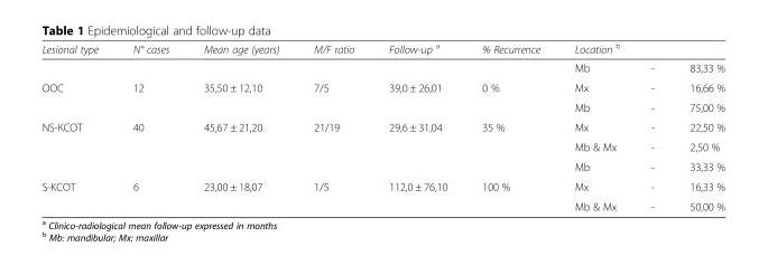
<table><thead><tr><td rowspan="2">Lesional type</td><td rowspan="2">N° cases</td><td rowspan="2">Mean age (years)</td><td rowspan="2">M/F ratio</td><td rowspan="2">Follow-up <sup>a</sup></td><td rowspan="2">% Recurrence</td><td colspan="3">Location <sup>b</sup></td></tr><tr><td>Mb</td><td>-</td><td>83,33 %</td></tr></thead><tbody><tr><td rowspan="2">OOC</td><td>12</td><td>35,50 ± 12,10</td><td>7/5</td><td>39,0 ± 26,01</td><td>0 %</td><td>Mx</td><td>-</td><td>16,66 %</td></tr><tr><td></td><td></td><td></td><td></td><td></td><td>Mb</td><td>-</td><td>75,00 %</td></tr><tr><td rowspan="3">NS-KCOT</td><td>40</td><td>45,67 ± 21,20</td><td>21/19</td><td>29,6 ± 31,04</td><td>35 %</td><td>Mx</td><td>-</td><td>22,50 %</td></tr><tr><td></td><td></td><td></td><td></td><td></td><td>Mb &amp; Mx</td><td>-</td><td>2,50 %</td></tr><tr><td></td><td></td><td></td><td></td><td></td><td>Mb</td><td>-</td><td>33,33 %</td></tr><tr><td rowspan="2">S-KCOT</td><td>6</td><td>23,00 ± 18,07</td><td>1/5</td><td>112,0 ± 76,10</td><td>100 %</td><td>Mx</td><td>-</td><td>16,33 %</td></tr><tr><td></td><td></td><td></td><td></td><td></td><td>Mb &amp; Mx</td><td>-</td><td>50,00 %</td></tr></tbody></table>